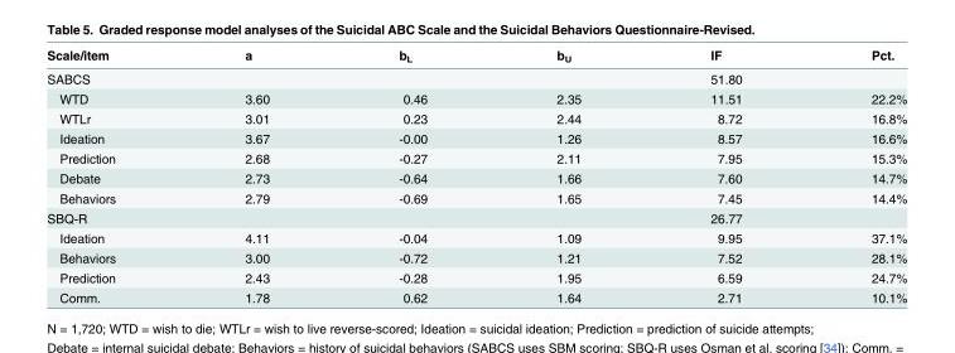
<table><thead><tr><td>Scale/item</td><td>a</td><td>b<sub>L</sub></td><td>b<sub>U</sub></td><td>IF</td><td>Pct.</td></tr></thead><tbody><tr><td>SABCS</td><td></td><td></td><td></td><td>51.80</td><td></td></tr><tr><td>WTD</td><td>3.60</td><td>0.46</td><td>2.35</td><td>11.51</td><td>22.2%</td></tr><tr><td>WTLr</td><td>3.01</td><td>0.23</td><td>2.44</td><td>8.72</td><td>16.8%</td></tr><tr><td>Ideation</td><td>3.67</td><td>-0.00</td><td>1.26</td><td>8.57</td><td>16.6%</td></tr><tr><td>Prediction</td><td>2.68</td><td>-0.27</td><td>2.11</td><td>7.95</td><td>15.3%</td></tr><tr><td>Debate</td><td>2.73</td><td>-0.64</td><td>1.66</td><td>7.60</td><td>14.7%</td></tr><tr><td>Behaviors</td><td>2.79</td><td>-0.69</td><td>1.65</td><td>7.45</td><td>14.4%</td></tr><tr><td>SBQ-R</td><td></td><td></td><td></td><td>26.77</td><td></td></tr><tr><td>Ideation</td><td>4.11</td><td>-0.04</td><td>1.09</td><td>9.95</td><td>37.1%</td></tr><tr><td>Behaviors</td><td>3.00</td><td>-0.72</td><td>1.21</td><td>7.52</td><td>28.1%</td></tr><tr><td>Prediction</td><td>2.43</td><td>-0.28</td><td>1.95</td><td>6.59</td><td>24.7%</td></tr><tr><td>Comm.</td><td>1.78</td><td>0.62</td><td>1.64</td><td>2.71</td><td>10.1%</td></tr></tbody></table>